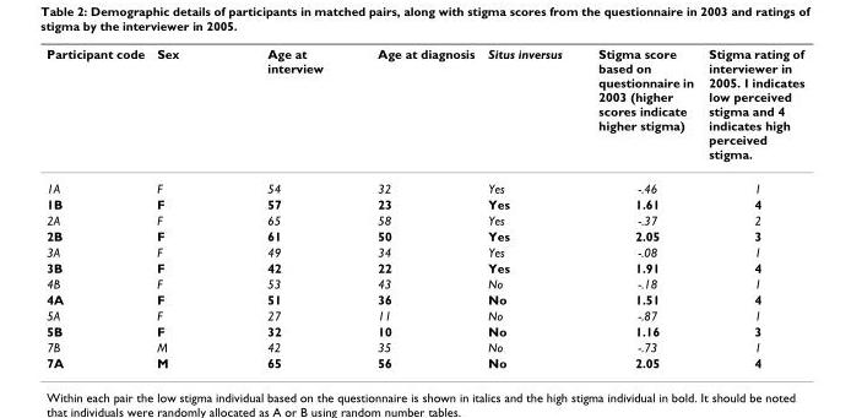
<table><thead><tr><td>Participant code</td><td>Sex</td><td>Age at interview</td><td>Age at diagnosis</td><td>Situs inversus</td><td>Stigma score based on questionnaire in 2003 (higher scores indicate higher stigma)</td><td>Stigma rating of interviewer in 2005. 1 indicates low perceived stigma and 4 indicates high perceived stigma.</td></tr></thead><tbody><tr><td>1A</td><td>F</td><td>54</td><td>32</td><td>Yes</td><td>-.46</td><td>1</td></tr><tr><td>1B</td><td>F</td><td>57</td><td>23</td><td>Yes</td><td>1.61</td><td>4</td></tr><tr><td>2A</td><td>F</td><td>65</td><td>58</td><td>Yes</td><td>-.37</td><td>2</td></tr><tr><td>2B</td><td>F</td><td>61</td><td>50</td><td>Yes</td><td>2.05</td><td>3</td></tr><tr><td>3A</td><td>F</td><td>49</td><td>34</td><td>Yes</td><td>-.08</td><td>1</td></tr><tr><td>3B</td><td>F</td><td>42</td><td>22</td><td>Yes</td><td>1.91</td><td>4</td></tr><tr><td>4B</td><td>F</td><td>53</td><td>43</td><td>No</td><td>-.18</td><td>1</td></tr><tr><td>4A</td><td>F</td><td>51</td><td>36</td><td>No</td><td>1.51</td><td>4</td></tr><tr><td>5A</td><td>F</td><td>27</td><td>11</td><td>No</td><td>-.87</td><td>1</td></tr><tr><td>5B</td><td>F</td><td>32</td><td>10</td><td>No</td><td>1.16</td><td>3</td></tr><tr><td>7B</td><td>M</td><td>42</td><td>35</td><td>No</td><td>-.73</td><td>1</td></tr><tr><td>7A</td><td>M</td><td>65</td><td>56</td><td>No</td><td>2.05</td><td>4</td></tr></tbody></table>